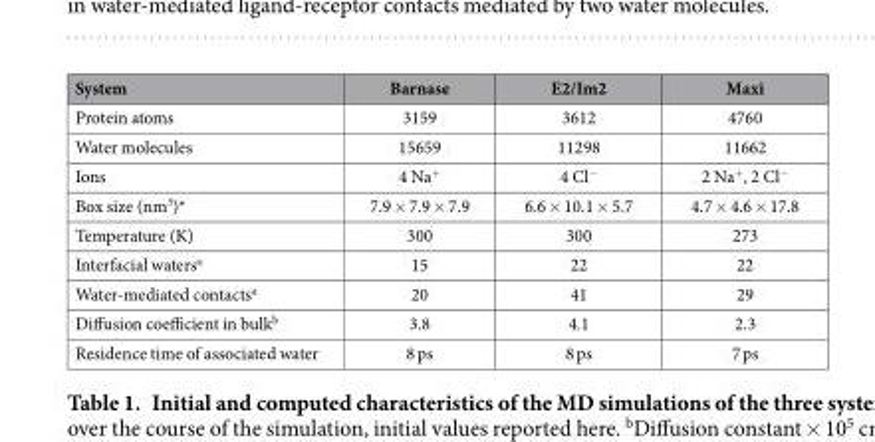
<table><thead><tr><td>System</td><td>Barnase</td><td>E2/Im2</td><td>Maxi</td></tr></thead><tbody><tr><td>Protein atoms</td><td>3159</td><td>3612</td><td>4760</td></tr><tr><td>Water molecules</td><td>15659</td><td>11298</td><td>11662</td></tr><tr><td>Ions</td><td>4 Na<sup>+</sup></td><td>4 Cl<sup>−</sup></td><td>2 Na<sup>+</sup>, 2 Cl<sup>−</sup></td></tr><tr><td>Box size (nm<sup>3</sup>)*</td><td>7.9 × 7.9 × 7.9</td><td>6.6 × 10.1 × 5.7</td><td>4.7 × 4.6 × 17.8</td></tr><tr><td>Temperature (K)</td><td>300</td><td>300</td><td>273</td></tr><tr><td>Interfacial waters<sup>a</sup></td><td>15</td><td>22</td><td>22</td></tr><tr><td>Water-mediated contacts<sup>a</sup></td><td>20</td><td>41</td><td>29</td></tr><tr><td>Diffusion coefficient in bulk<sup>b</sup></td><td>3.8</td><td>4.1</td><td>2.3</td></tr><tr><td>Residence time of associated water</td><td>8 ps</td><td>8 ps</td><td>7 ps</td></tr></tbody></table>